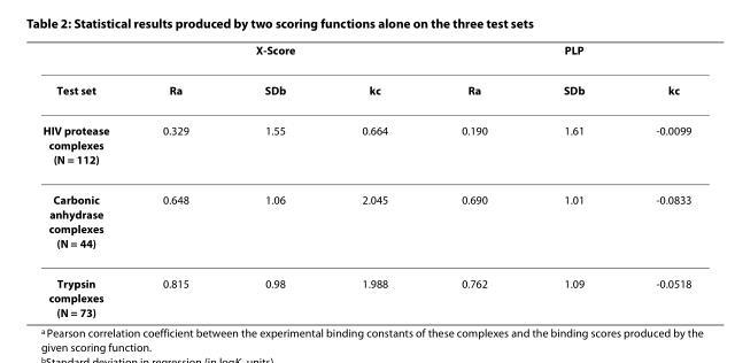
<table><thead><tr><td rowspan="2">Test set</td><td colspan="3">X-Score</td><td colspan="3">PLP</td></tr><tr><td>R<sup>a</sup></td><td>SD<sup>b</sup></td><td>k<sup>c</sup></td><td>R<sup>a</sup></td><td>SD<sup>b</sup></td><td>k<sup>c</sup></td></tr></thead><tbody><tr><td>HIV protease complexes (N = 112)</td><td>0.329</td><td>1.55</td><td>0.664</td><td>0.190</td><td>1.61</td><td>-0.0099</td></tr><tr><td>Carbonic anhydrase complexes (N = 44)</td><td>0.648</td><td>1.06</td><td>2.045</td><td>0.690</td><td>1.01</td><td>-0.0833</td></tr><tr><td>Trypsin complexes (N = 73)</td><td>0.815</td><td>0.98</td><td>1.988</td><td>0.762</td><td>1.09</td><td>-0.0518</td></tr></tbody></table>